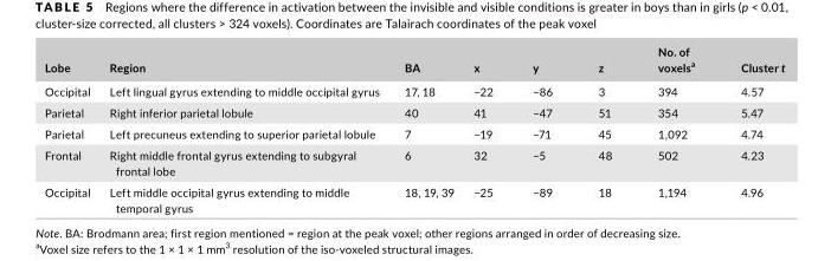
<table><thead><tr><td>Lobe</td><td>Region</td><td>BA</td><td>x</td><td>y</td><td>z</td><td>No. of voxels<sup>a</sup></td><td>Cluster t</td></tr></thead><tbody><tr><td>Occipital</td><td>Left lingual gyrus extending to middle occipital gyrus</td><td>17, 18</td><td>−22</td><td>−86</td><td>3</td><td>394</td><td>4.57</td></tr><tr><td>Parietal</td><td>Right inferior parietal lobule</td><td>40</td><td>41</td><td>−47</td><td>51</td><td>354</td><td>5.47</td></tr><tr><td>Parietal</td><td>Left precuneus extending to superior parietal lobule</td><td>7</td><td>−19</td><td>−71</td><td>45</td><td>1,092</td><td>4.74</td></tr><tr><td>Frontal</td><td>Right middle frontal gyrus extending to subgyral frontal lobe</td><td>6</td><td>32</td><td>−5</td><td>48</td><td>502</td><td>4.23</td></tr><tr><td>Occipital</td><td>Left middle occipital gyrus extending to middle temporal gyrus</td><td>18, 19, 39</td><td>−25</td><td>−89</td><td>18</td><td>1,194</td><td>4.96</td></tr></tbody></table>